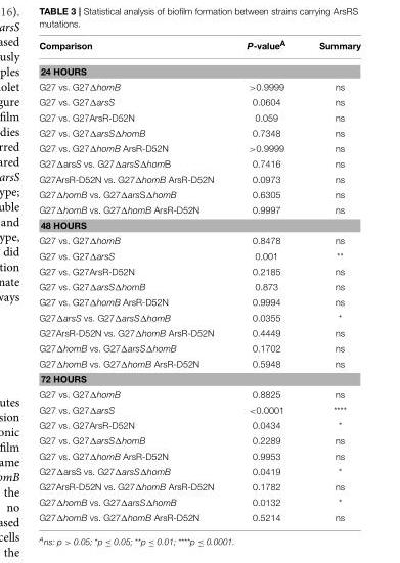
<table><thead><tr><td>Comparison</td><td>P-value<sup>A</sup></td><td>Summary</td></tr></thead><tbody><tr><td colspan="3">24 HOURS</td></tr><tr><td>G27 vs. G27ΔhomB</td><td>&gt;0.9999</td><td>ns</td></tr><tr><td>G27 vs. G27ΔarsS</td><td>0.0604</td><td>ns</td></tr><tr><td>G27 vs. G27ArsR-D52N</td><td>0.059</td><td>ns</td></tr><tr><td>G27 vs. G27ΔarsSΔhomB</td><td>0.7348</td><td>ns</td></tr><tr><td>G27 vs. G27ΔhomB ArsR-D52N</td><td>&gt;0.9999</td><td>ns</td></tr><tr><td>G27ΔarsS vs. G27ΔarsSΔhomB</td><td>0.7416</td><td>ns</td></tr><tr><td>G27ArsR-D52N vs. G27ΔhomB ArsR-D52N</td><td>0.0973</td><td>ns</td></tr><tr><td>G27ΔhomB vs. G27ΔarsSΔhomB</td><td>0.6305</td><td>ns</td></tr><tr><td>G27ΔhomB vs. G27ΔhomB ArsR-D52N</td><td>0.9997</td><td>ns</td></tr><tr><td colspan="3">48 HOURS</td></tr><tr><td>G27 vs. G27ΔhomB</td><td>0.8478</td><td>ns</td></tr><tr><td>G27 vs. G27ΔarsS</td><td>0.001</td><td>**</td></tr><tr><td>G27 vs. G27ArsR-D52N</td><td>0.2185</td><td>ns</td></tr><tr><td>G27 vs. G27ΔarsSΔhomB</td><td>0.873</td><td>ns</td></tr><tr><td>G27 vs. G27ΔhomB ArsR-D52N</td><td>0.9994</td><td>ns</td></tr><tr><td>G27ΔarsS vs. G27ΔarsSΔhomB</td><td>0.0355</td><td>*</td></tr><tr><td>G27ArsR-D52N vs. G27ΔhomB ArsR-D52N</td><td>0.4449</td><td>ns</td></tr><tr><td>G27ΔhomB vs. G27ΔarsSΔhomB</td><td>0.1702</td><td>ns</td></tr><tr><td>G27ΔhomB vs. G27ΔhomB ArsR-D52N</td><td>0.5948</td><td>ns</td></tr><tr><td colspan="3">72 HOURS</td></tr><tr><td>G27 vs. G27ΔhomB</td><td>0.8825</td><td>ns</td></tr><tr><td>G27 vs. G27ΔarsS</td><td>&lt;0.0001</td><td>****</td></tr><tr><td>G27 vs. G27ArsR-D52N</td><td>0.0434</td><td>*</td></tr><tr><td>G27 vs. G27ΔarsSΔhomB</td><td>0.2289</td><td>ns</td></tr><tr><td>G27 vs. G27ΔhomB ArsR-D52N</td><td>0.9953</td><td>ns</td></tr><tr><td>G27ΔarsS vs. G27ΔarsSΔhomB</td><td>0.0419</td><td>*</td></tr><tr><td>G27ArsR-D52N vs. G27ΔhomB ArsR-D52N</td><td>0.1782</td><td>ns</td></tr><tr><td>G27ΔhomB vs. G27ΔarsSΔhomB</td><td>0.0132</td><td>*</td></tr><tr><td>G27ΔhomB vs. G27ΔhomB ArsR-D52N</td><td>0.5214</td><td>ns</td></tr></tbody></table>